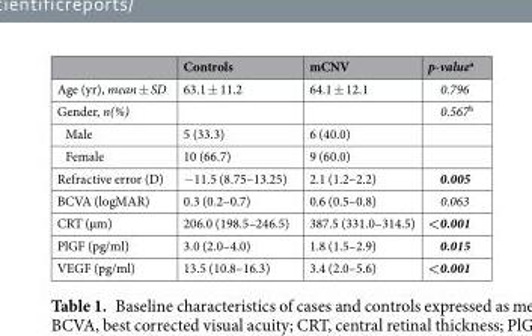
<table><thead><tr><td></td><td>Controls</td><td>mCNV</td><td>p-value<sup>a</sup></td></tr></thead><tbody><tr><td>Age (yr), mean ± SD</td><td>63.1 ± 11.2</td><td>64.1 ± 12.1</td><td>0.796</td></tr><tr><td>Gender, n(%)</td><td></td><td></td><td>0.567<sup>b</sup></td></tr><tr><td>Male</td><td>5 (33.3)</td><td>6 (40.0)</td><td></td></tr><tr><td>Female</td><td>10 (66.7)</td><td>9 (60.0)</td><td></td></tr><tr><td>Refractive error (D)</td><td>−11.5 (8.75–13.25)</td><td>2.1 (1.2–2.2)</td><td>0.005</td></tr><tr><td>BCVA (logMAR)</td><td>0.3 (0.2–0.7)</td><td>0.6 (0.5–0.8)</td><td>0.063</td></tr><tr><td>CRT (µm)</td><td>206.0 (198.5–246.5)</td><td>387.5 (331.0–314.5)</td><td>&lt;0.001</td></tr><tr><td>PlGF (pg/ml)</td><td>3.0 (2.0–4.0)</td><td>1.8 (1.5–2.9)</td><td>0.015</td></tr><tr><td>VEGF (pg/ml)</td><td>13.5 (10.8–16.3)</td><td>3.4 (2.0–5.6)</td><td>&lt;0.001</td></tr></tbody></table>